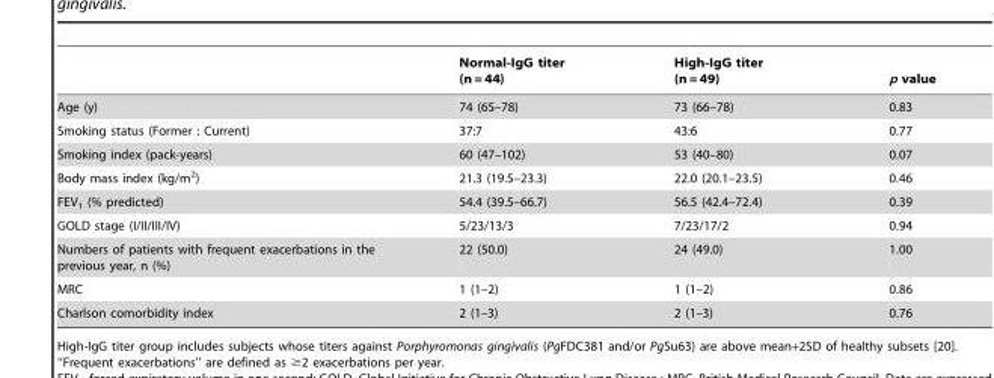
<table><thead><tr><td></td><td>Normal-IgG titer (n = 44)</td><td>High-IgG titer (n = 49)</td><td>p value</td></tr></thead><tbody><tr><td>Age (y)</td><td>74 (65–78)</td><td>73 (66–78)</td><td>0.83</td></tr><tr><td>Smoking status (Former : Current)</td><td>37:7</td><td>43:6</td><td>0.77</td></tr><tr><td>Smoking index (pack-years)</td><td>60 (47–102)</td><td>53 (40–80)</td><td>0.07</td></tr><tr><td>Body mass index (kg/m<sup>2</sup>)</td><td>21.3 (19.5–23.3)</td><td>22.0 (20.1–23.5)</td><td>0.46</td></tr><tr><td>FEV<sub>1</sub> (% predicted)</td><td>54.4 (39.5–66.7)</td><td>56.5 (42.4–72.4)</td><td>0.39</td></tr><tr><td>GOLD stage (I/II/III/IV)</td><td>5/23/13/3</td><td>7/23/17/2</td><td>0.94</td></tr><tr><td>Numbers of patients with frequent exacerbations in the previous year, n (%)</td><td>22 (50.0)</td><td>24 (49.0)</td><td>1.00</td></tr><tr><td>MRC</td><td>1 (1–2)</td><td>1 (1–2)</td><td>0.86</td></tr><tr><td>Charlson comorbidity index</td><td>2 (1–3)</td><td>2 (1–3)</td><td>0.76</td></tr></tbody></table>